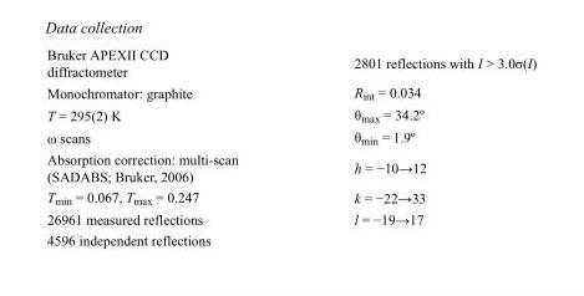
<table><tbody><tr><td>Bruker APEXII CCD diffractometer</td><td>2801 reflections with I &gt; 3.0σ(I)</td></tr><tr><td>Monochromator: graphite</td><td>R<sub>int</sub> = 0.034</td></tr><tr><td>T = 295(2) K</td><td>θ<sub>max</sub> = 34.2º</td></tr><tr><td>ω scans</td><td>θ<sub>min</sub> = 1.9º</td></tr><tr><td>Absorption correction: multi-scan (SADABS; Bruker, 2006)</td><td>h = −10→12</td></tr><tr><td>T<sub>min</sub> = 0.067, T<sub>max</sub> = 0.247</td><td>k = −22→33</td></tr><tr><td>26961 measured reflections</td><td>l = −19→17</td></tr><tr><td>4596 independent reflections</td><td></td></tr></tbody></table>